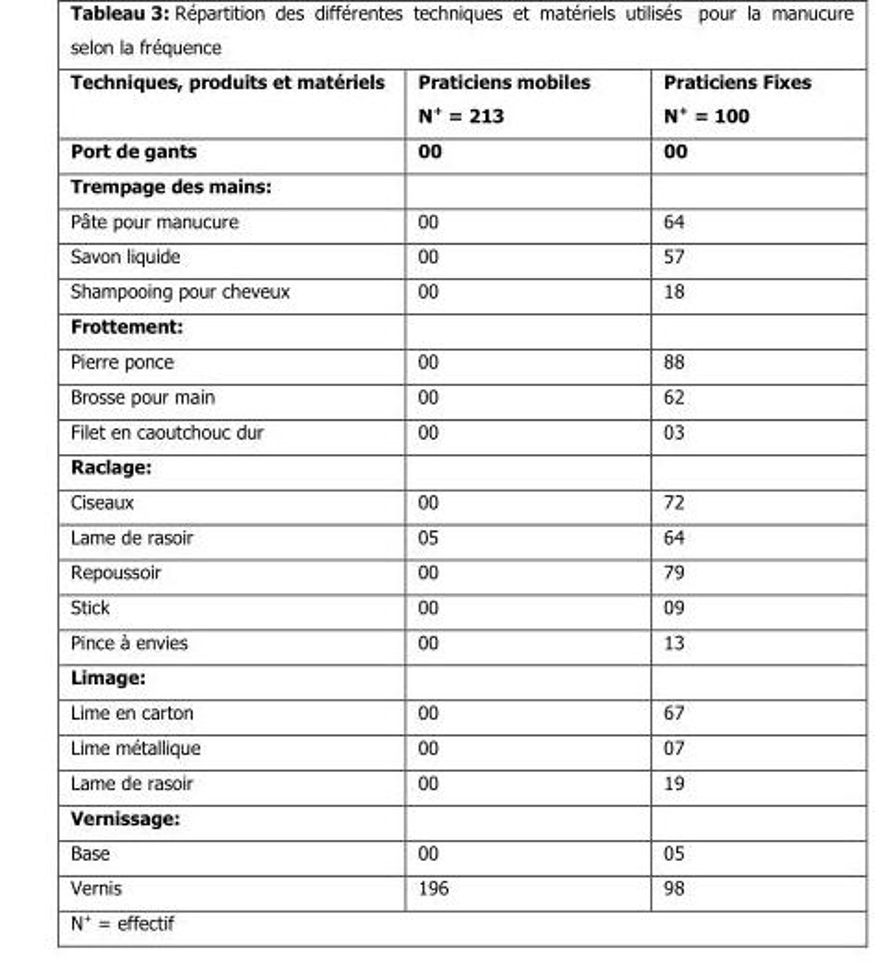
<table><thead><tr><td rowspan="2">Techniques, produits et matériels Port de gants</td><td rowspan="2">Praticiens mobiles N<sup>+</sup> = 213 00</td><td rowspan="2">Praticiens Fixes N<sup>+</sup> = 100 00</td></tr><tr></tr></thead><tbody><tr><td colspan="3">Trempage des mains:</td></tr><tr><td>Pâte pour manucure</td><td>00</td><td>64</td></tr><tr><td>Savon liquide</td><td>00</td><td>57</td></tr><tr><td>Shampooing pour cheveux</td><td>00</td><td>18</td></tr><tr><td colspan="3">Frottement:</td></tr><tr><td>Pierre ponce</td><td>00</td><td>88</td></tr><tr><td>Brosse pour main</td><td>00</td><td>62</td></tr><tr><td>Filet en caoutchouc dur</td><td>00</td><td>03</td></tr><tr><td colspan="3">Raclage:</td></tr><tr><td>Ciseaux</td><td>00</td><td>72</td></tr><tr><td>Lame de rasoir</td><td>05</td><td>64</td></tr><tr><td>Repoussoir</td><td>00</td><td>79</td></tr><tr><td>Stick</td><td>00</td><td>09</td></tr><tr><td>Pince à envies</td><td>00</td><td>13</td></tr><tr><td colspan="3">Limage:</td></tr><tr><td>Lime en carton</td><td>00</td><td>67</td></tr><tr><td>Lime métallique</td><td>00</td><td>07</td></tr><tr><td>Lame de rasoir</td><td>00</td><td>19</td></tr><tr><td colspan="3">Vernissage:</td></tr><tr><td>Base</td><td>00</td><td>05</td></tr><tr><td>Vernis</td><td>196</td><td>98</td></tr></tbody></table>